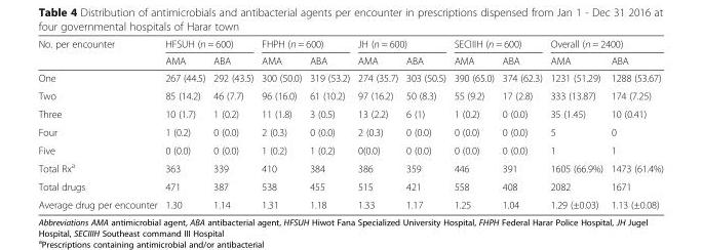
<table><thead><tr><td rowspan="2">No. per encounter</td><td colspan="2">HFSUH (n = 600)</td><td colspan="2">FHPH (n = 600)</td><td colspan="2">JH (n = 600)</td><td colspan="2">SECIIIH (n = 600)</td><td colspan="2">Overall (n = 2400)</td></tr><tr><td>AMA</td><td>ABA</td><td>AMA</td><td>ABA</td><td>AMA</td><td>ABA</td><td>AMA</td><td>ABA</td><td>AMA</td><td>ABA</td></tr></thead><tbody><tr><td>One</td><td>267 (44.5)</td><td>292 (43.5)</td><td>300 (50.0)</td><td>319 (53.2)</td><td>274 (35.7)</td><td>303 (50.5)</td><td>390 (65.0)</td><td>374 (62.3)</td><td>1231 (51.29)</td><td>1288 (53.67)</td></tr><tr><td>Two</td><td>85 (14.2)</td><td>46 (7.7)</td><td>96 (16.0)</td><td>61 (10.2)</td><td>97 (16.2)</td><td>50 (8.3)</td><td>55 (9.2)</td><td>17 (2.8)</td><td>333 (13.87)</td><td>174 (7.25)</td></tr><tr><td>Three</td><td>10 (1.7)</td><td>1 (0.2)</td><td>11 (1.8)</td><td>3 (0.5)</td><td>13 (2.2)</td><td>6 (1)</td><td>1 (0.2)</td><td>0 (0.0)</td><td>35 (1.45)</td><td>10 (0.41)</td></tr><tr><td>Four</td><td>1 (0.2)</td><td>0 (0.0)</td><td>2 (0.3)</td><td>0 (0.0)</td><td>2 (0.3)</td><td>0 (0.0)</td><td>0 (0.0)</td><td>0 (0.0)</td><td>5</td><td>0</td></tr><tr><td>Five</td><td>0 (0.0)</td><td>0 (0.0)</td><td>1 (0.2)</td><td>1 (0.2)</td><td>0(0.0)</td><td>0 (0.0)</td><td>0 (0.0)</td><td>0 (0.0)</td><td>1</td><td>1</td></tr><tr><td>Total Rx<sup>a</sup></td><td>363</td><td>339</td><td>410</td><td>384</td><td>386</td><td>359</td><td>446</td><td>391</td><td>1605 (66.9%)</td><td>1473 (61.4%)</td></tr><tr><td>Total drugs</td><td>471</td><td>387</td><td>538</td><td>455</td><td>515</td><td>421</td><td>558</td><td>408</td><td>2082</td><td>1671</td></tr><tr><td>Average drug per encounter</td><td>1.30</td><td>1.14</td><td>1.31</td><td>1.18</td><td>1.33</td><td>1.17</td><td>1.25</td><td>1.04</td><td>1.29 (±0.03)</td><td>1.13 (±0.08)</td></tr></tbody></table>